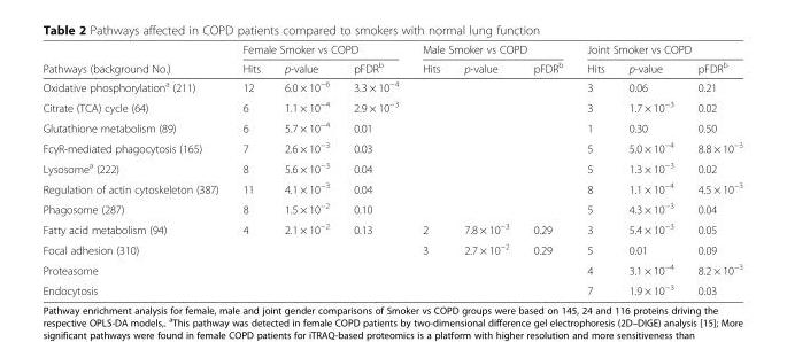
<table><thead><tr><td rowspan="2">Pathways (background No.)</td><td colspan="3">Female Smoker vs COPD</td><td colspan="3">Male Smoker vs COPD</td><td colspan="3">Joint Smoker vs COPD</td></tr><tr><td>Hits</td><td>p-value</td><td>pFDR<sup>b</sup></td><td>Hits</td><td>p-value</td><td>pFDR<sup>b</sup></td><td>Hits</td><td>p-value</td><td>pFDR<sup>b</sup></td></tr></thead><tbody><tr><td>Oxidative phosphorylation<sup>a</sup> (211)</td><td>12</td><td>6.0 × 10<sup>−6</sup></td><td>3.3 × 10<sup>−4</sup></td><td></td><td></td><td></td><td>3</td><td>0.06</td><td>0.21</td></tr><tr><td>Citrate (TCA) cycle (64)</td><td>6</td><td>1.1 × 10<sup>−4</sup></td><td>2.9 × 10<sup>−3</sup></td><td></td><td></td><td></td><td>3</td><td>1.7 × 10<sup>−3</sup></td><td>0.02</td></tr><tr><td>Glutathione metabolism (89)</td><td>6</td><td>5.7 × 10<sup>−4</sup></td><td>0.01</td><td></td><td></td><td></td><td>1</td><td>0.30</td><td>0.50</td></tr><tr><td>FcγR-mediated phagocytosis (165)</td><td>7</td><td>2.6 × 10<sup>−3</sup></td><td>0.03</td><td></td><td></td><td></td><td>5</td><td>5.0 × 10<sup>−4</sup></td><td>8.8 × 10<sup>−3</sup></td></tr><tr><td>Lysosome<sup>a</sup> (222)</td><td>8</td><td>5.6 × 10<sup>−3</sup></td><td>0.04</td><td></td><td></td><td></td><td>5</td><td>1.3 × 10<sup>−3</sup></td><td>0.02</td></tr><tr><td>Regulation of actin cytoskeleton (387)</td><td>11</td><td>4.1 × 10<sup>−3</sup></td><td>0.04</td><td></td><td></td><td></td><td>8</td><td>1.1 × 10<sup>−4</sup></td><td>4.5 × 10<sup>−3</sup></td></tr><tr><td>Phagosome (287)</td><td>8</td><td>1.5 × 10<sup>−2</sup></td><td>0.10</td><td></td><td></td><td></td><td>5</td><td>4.3 × 10<sup>−3</sup></td><td>0.04</td></tr><tr><td>Fatty acid metabolism (94)</td><td>4</td><td>2.1 × 10<sup>−2</sup></td><td>0.13</td><td>2</td><td>7.8 × 10<sup>−3</sup></td><td>0.29</td><td>3</td><td>5.4 × 10<sup>−3</sup></td><td>0.05</td></tr><tr><td>Focal adhesion (310)</td><td></td><td></td><td></td><td>3</td><td>2.7 × 10<sup>−2</sup></td><td>0.29</td><td>5</td><td>0.01</td><td>0.09</td></tr><tr><td>Proteasome</td><td></td><td></td><td></td><td></td><td></td><td></td><td>4</td><td>3.1 × 10<sup>−4</sup></td><td>8.2 × 10<sup>−3</sup></td></tr><tr><td>Endocytosis</td><td></td><td></td><td></td><td></td><td></td><td></td><td>7</td><td>1.9 × 10<sup>−3</sup></td><td>0.03</td></tr></tbody></table>